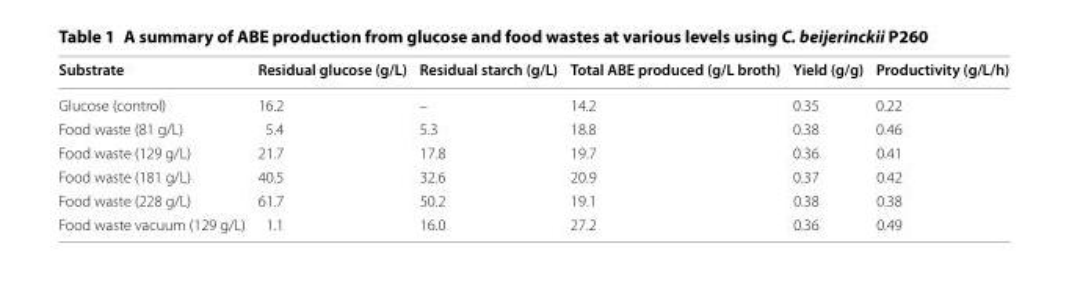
<table><thead><tr><td>Substrate</td><td>Residual glucose (g/L)</td><td>Residual starch (g/L)</td><td>Total ABE produced (g/L broth)</td><td>Yield (g/g)</td><td>Productivity (g/L/h)</td></tr></thead><tbody><tr><td>Glucose (control)</td><td>16.2</td><td>–</td><td>14.2</td><td>0.35</td><td>0.22</td></tr><tr><td>Food waste (81 g/L)</td><td>5.4</td><td>5.3</td><td>18.8</td><td>0.38</td><td>0.46</td></tr><tr><td>Food waste (129 g/L)</td><td>21.7</td><td>17.8</td><td>19.7</td><td>0.36</td><td>0.41</td></tr><tr><td>Food waste (181 g/L)</td><td>40.5</td><td>32.6</td><td>20.9</td><td>0.37</td><td>0.42</td></tr><tr><td>Food waste (228 g/L)</td><td>61.7</td><td>50.2</td><td>19.1</td><td>0.38</td><td>0.38</td></tr><tr><td>Food waste vacuum (129 g/L)</td><td>1.1</td><td>16.0</td><td>27.2</td><td>0.36</td><td>0.49</td></tr></tbody></table>